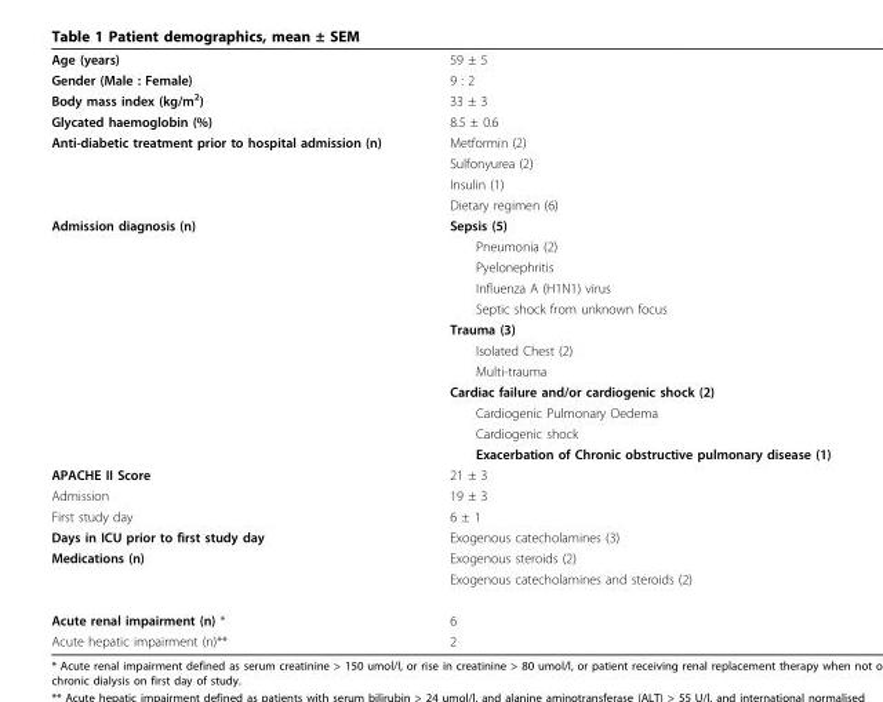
<table><tbody><tr><td>Age (years)</td><td>59 ± 5</td></tr><tr><td>Gender (Male : Female)</td><td>9 : 2</td></tr><tr><td>Body mass index (kg/m<sup>2</sup>)</td><td>33 ± 3</td></tr><tr><td>Glycated haemoglobin (%)</td><td>8.5 ± 0.6</td></tr><tr><td rowspan="4">Anti-diabetic treatment prior to hospital admission (n)</td><td>Metformin (2)</td></tr><tr><td>Sulfonyurea (2)</td></tr><tr><td>Insulin (1)</td></tr><tr><td>Dietary regimen (6)</td></tr><tr><td rowspan="12">Admission diagnosis (n)</td><td>Sepsis (5)</td></tr><tr><td>Pneumonia (2)</td></tr><tr><td>Pyelonephritis</td></tr><tr><td>Influenza A (H1N1) virus</td></tr><tr><td>Septic shock from unknown focus</td></tr><tr><td>Trauma (3)</td></tr><tr><td>Isolated Chest (2)</td></tr><tr><td>Multi-trauma</td></tr><tr><td>Cardiac failure and/or cardiogenic shock (2)</td></tr><tr><td>Cardiogenic Pulmonary Oedema</td></tr><tr><td>Cardiogenic shock</td></tr><tr><td>Exacerbation of Chronic obstructive pulmonary disease (1)</td></tr><tr><td>APACHE II Score</td><td>21 ± 3</td></tr><tr><td>Admission</td><td>19 ± 3</td></tr><tr><td>First study day</td><td>6 ± 1</td></tr><tr><td>Days in ICU prior to first study day</td><td>Exogenous catecholamines (3)</td></tr><tr><td rowspan="2">Medications (n)</td><td>Exogenous steroids (2)</td></tr><tr><td>Exogenous catecholamines and steroids (2)</td></tr><tr><td>Acute renal impairment (n) *</td><td>6</td></tr><tr><td>Acute hepatic impairment (n)**</td><td>2</td></tr></tbody></table>